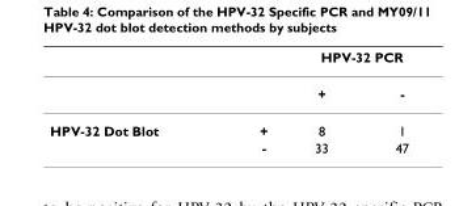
<table><thead><tr><td rowspan="2"></td><td rowspan="2"></td><td colspan="2">HPV-32 PCR</td></tr><tr><td>+</td><td>-</td></tr></thead><tbody><tr><td rowspan="2">HPV-32 Dot Blot</td><td>+</td><td>8</td><td>1</td></tr><tr><td>-</td><td>33</td><td>47</td></tr></tbody></table>